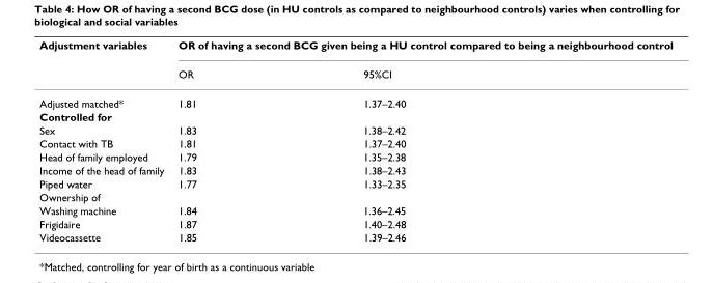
<table><thead><tr><td rowspan="2">Adjustment variables</td><td colspan="2">OR of having a second BCG given being a HU control compared to being a neighbourhood control</td></tr><tr><td>OR</td><td>95%CI</td></tr></thead><tbody><tr><td>Adjusted matched*</td><td>1.81</td><td>1.37–2.40</td></tr><tr><td colspan="3">Controlled for</td></tr><tr><td>Sex</td><td>1.83</td><td>1.38–2.42</td></tr><tr><td>Contact with TB</td><td>1.81</td><td>1.37–2.40</td></tr><tr><td>Head of family employed</td><td>1.79</td><td>1.35–2.38</td></tr><tr><td>Income of the head of family</td><td>1.83</td><td>1.38–2.43</td></tr><tr><td>Piped water</td><td>1.77</td><td>1.33–2.35</td></tr><tr><td colspan="3">Ownership of</td></tr><tr><td>Washing machine</td><td>1.84</td><td>1.36–2.45</td></tr><tr><td>Frigidaire</td><td>1.87</td><td>1.40–2.48</td></tr><tr><td>Videocassette</td><td>1.85</td><td>1.39–2.46</td></tr></tbody></table>